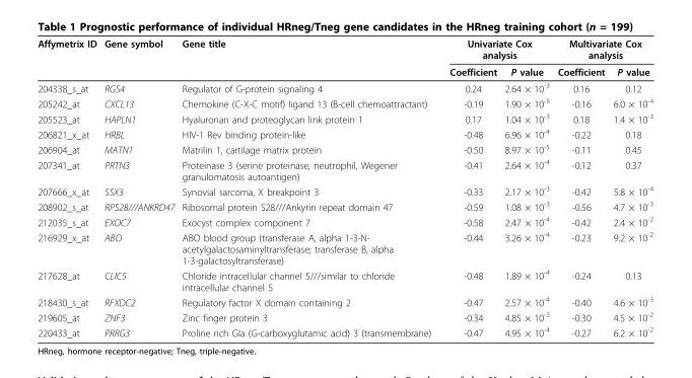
<table><thead><tr><td rowspan="2">Affymetrix ID</td><td rowspan="2">Gene symbol</td><td rowspan="2">Gene title</td><td colspan="2">Univariate Cox analysis</td><td colspan="2">Multivariate Cox analysis</td></tr><tr><td>Coefficient</td><td>P value</td><td>Coefficient</td><td>P value</td></tr></thead><tbody><tr><td>204338_s_at</td><td>RGS4</td><td>Regulator of G-protein signaling 4</td><td>0.24</td><td>2.64 × 10<sup>-3</sup></td><td>0.16</td><td>0.12</td></tr><tr><td>205242_at</td><td>CXCL13</td><td>Chemokine (C-X-C motif) ligand 13 (B-cell chemoattractant)</td><td>-0.19</td><td>1.90 × 10<sup>-5</sup></td><td>-0.16</td><td>6.0 × 10<sup>-4</sup></td></tr><tr><td>205523_at</td><td>HAPLN1</td><td>Hyaluronan and proteoglycan link protein 1</td><td>0.17</td><td>1.04 × 10<sup>-3</sup></td><td>0.18</td><td>1.4 × 10<sup>-3</sup></td></tr><tr><td>206821_x_at</td><td>HRBL</td><td>HIV-1 Rev binding protein-like</td><td>-0.48</td><td>6.96 × 10<sup>-4</sup></td><td>-0.22</td><td>0.18</td></tr><tr><td>206904_at</td><td>MATN1</td><td>Matrilin 1, cartilage matrix protein</td><td>-0.50</td><td>8.97 × 10<sup>-5</sup></td><td>-0.11</td><td>0.45</td></tr><tr><td>207341_at</td><td>PRTN3</td><td>Proteinase 3 (serine proteinase, neutrophil, Wegener granulomatosis autoantigen)</td><td>-0.41</td><td>2.64 × 10<sup>-4</sup></td><td>-0.12</td><td>0.37</td></tr><tr><td>207666_x_at</td><td>SSX3</td><td>Synovial sarcoma, X breakpoint 3</td><td>-0.33</td><td>2.17 × 10<sup>-3</sup></td><td>-0.42</td><td>5.8 × 10<sup>-4</sup></td></tr><tr><td>208902_s_at</td><td>RPS28///ANKRD47</td><td>Ribosomal protein S28///Ankyrin repeat domain 47</td><td>-0.59</td><td>1.08 × 10<sup>-3</sup></td><td>-0.56</td><td>4.7 × 10<sup>-3</sup></td></tr><tr><td>212035_s_at</td><td>EXOC7</td><td>Exocyst complex component 7</td><td>-0.58</td><td>2.47 × 10<sup>-4</sup></td><td>-0.42</td><td>2.4 × 10<sup>-2</sup></td></tr><tr><td>216929_x_at</td><td>ABO</td><td>ABO blood group (transferase A, alpha 1-3-N- acetylgalactosaminyltransferase; transferase B, alpha 1-3-galactosyltransferase)</td><td>-0.44</td><td>3.26 × 10<sup>-4</sup></td><td>-0.23</td><td>9.2 × 10<sup>-2</sup></td></tr><tr><td>217628_at</td><td>CLIC5</td><td>Chloride intracellular channel 5///similar to chloride intracellular channel 5</td><td>-0.48</td><td>1.89 × 10<sup>-4</sup></td><td>-0.24</td><td>0.13</td></tr><tr><td>218430_s_at</td><td>RFXDC2</td><td>Regulatory factor X domain containing 2</td><td>-0.47</td><td>2.57 × 10<sup>-4</sup></td><td>-0.40</td><td>4.6 × 10<sup>-3</sup></td></tr><tr><td>219605_at</td><td>ZNF3</td><td>Zinc finger protein 3</td><td>-0.34</td><td>4.85 × 10<sup>-3</sup></td><td>-0.30</td><td>4.5 × 10<sup>-2</sup></td></tr><tr><td>220433_at</td><td>PRRG3</td><td>Proline rich Gla (G-carboxyglutamic acid) 3 (transmembrane)</td><td>-0.47</td><td>4.95 × 10<sup>-4</sup></td><td>-0.27</td><td>6.2 × 10<sup>-2</sup></td></tr></tbody></table>